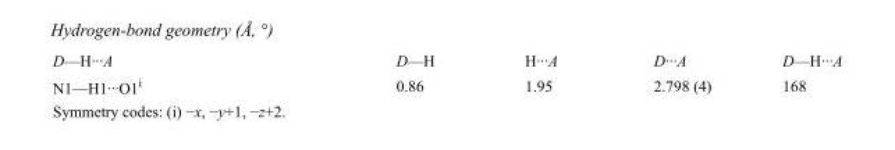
<table><tbody><tr><td>D—H···A</td><td>D—H</td><td>H···A</td><td>D···A</td><td>D—H···A</td></tr><tr><td>N1—H1···O1<sup>i</sup></td><td>0.86</td><td>1.95</td><td>2.798 (4)</td><td>168</td></tr></tbody></table>